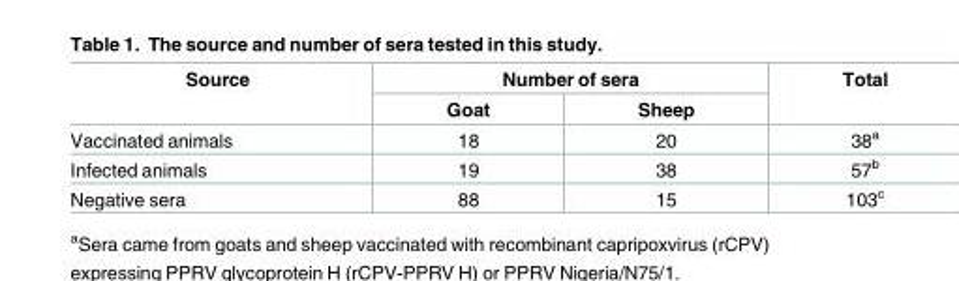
<table><thead><tr><td rowspan="2">Source</td><td colspan="2">Number of sera</td><td rowspan="2">Total</td></tr><tr><td>Goat</td><td>Sheep</td></tr></thead><tbody><tr><td>Vaccinated animals</td><td>18</td><td>20</td><td>38<sup>a</sup></td></tr><tr><td>Infected animals</td><td>19</td><td>38</td><td>57<sup>b</sup></td></tr><tr><td>Negative sera</td><td>88</td><td>15</td><td>103<sup>c</sup></td></tr></tbody></table>